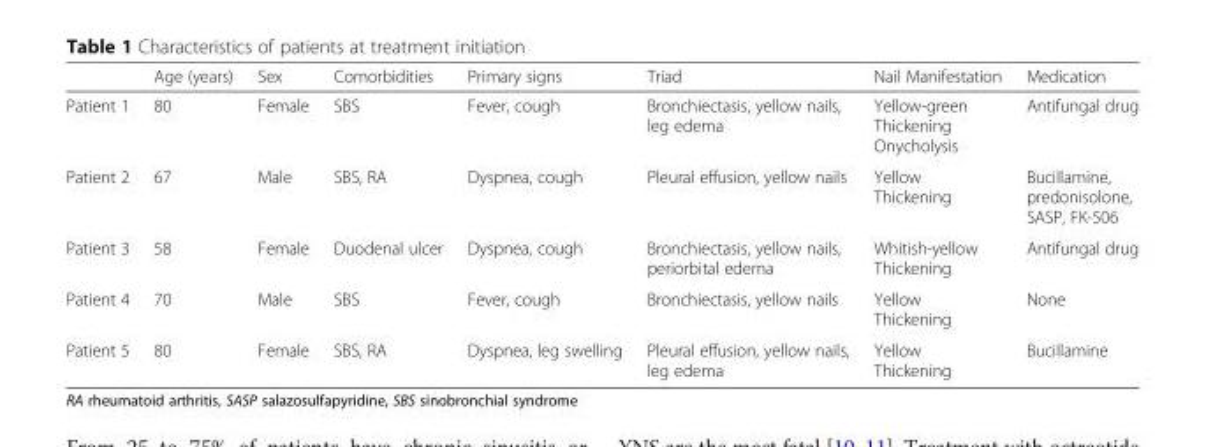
<table><thead><tr><td></td><td>Age (years)</td><td>Sex</td><td>Comorbidities</td><td>Primary signs</td><td>Triad</td><td>Nail Manifestation</td><td>Medication</td></tr></thead><tbody><tr><td>Patient 1</td><td>80</td><td>Female</td><td>SBS</td><td>Fever, cough</td><td>Bronchiectasis, yellow nails, leg edema</td><td>Yellow-green Thickening Onycholysis</td><td>Antifungal drug</td></tr><tr><td>Patient 2</td><td>67</td><td>Male</td><td>SBS, RA</td><td>Dyspnea, cough</td><td>Pleural effusion, yellow nails</td><td>Yellow Thickening</td><td>Bucillamine, predonisolone, SASP, FK-506</td></tr><tr><td>Patient 3</td><td>58</td><td>Female</td><td>Duodenal ulcer</td><td>Dyspnea, cough</td><td>Bronchiectasis, yellow nails, periorbital edema</td><td>Whitish-yellow Thickening</td><td>Antifungal drug</td></tr><tr><td>Patient 4</td><td>70</td><td>Male</td><td>SBS</td><td>Fever, cough</td><td>Bronchiectasis, yellow nails</td><td>Yellow Thickening</td><td>None</td></tr><tr><td>Patient 5</td><td>80</td><td>Female</td><td>SBS, RA</td><td>Dyspnea, leg swelling</td><td>Pleural effusion, yellow nails, leg edema</td><td>Yellow Thickening</td><td>Bucillamine</td></tr></tbody></table>